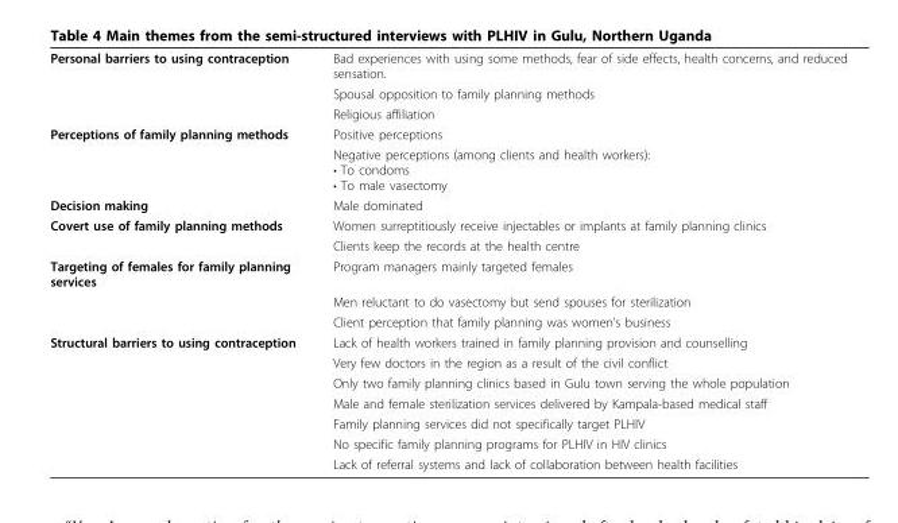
<table><tbody><tr><td rowspan="3">Personal barriers to using contraception</td><td>Bad experiences with using some methods, fear of side effects, health concerns, and reduced sensation.</td></tr><tr><td>Spousal opposition to family planning methods</td></tr><tr><td>Religious affiliation</td></tr><tr><td rowspan="2">Perceptions of family planning methods</td><td>Positive perceptions</td></tr><tr><td>Negative perceptions (among clients and health workers): • To condoms • To male vasectomy</td></tr><tr><td>Decision making</td><td>Male dominated</td></tr><tr><td rowspan="2">Covert use of family planning methods</td><td>Women surreptitiously receive injectables or implants at family planning clinics</td></tr><tr><td>Clients keep the records at the health centre</td></tr><tr><td rowspan="3">Targeting of females for family planning services</td><td>Program managers mainly targeted females</td></tr><tr><td>Men reluctant to do vasectomy but send spouses for sterilization</td></tr><tr><td>Client perception that family planning was women’s business</td></tr><tr><td rowspan="7">Structural barriers to using contraception</td><td>Lack of health workers trained in family planning provision and counselling</td></tr><tr><td>Very few doctors in the region as a result of the civil conflict</td></tr><tr><td>Only two family planning clinics based in Gulu town serving the whole population</td></tr><tr><td>Male and female sterilization services delivered by Kampala-based medical staff</td></tr><tr><td>Family planning services did not specifically target PLHIV</td></tr><tr><td>No specific family planning programs for PLHIV in HIV clinics</td></tr><tr><td>Lack of referral systems and lack of collaboration between health facilities</td></tr></tbody></table>